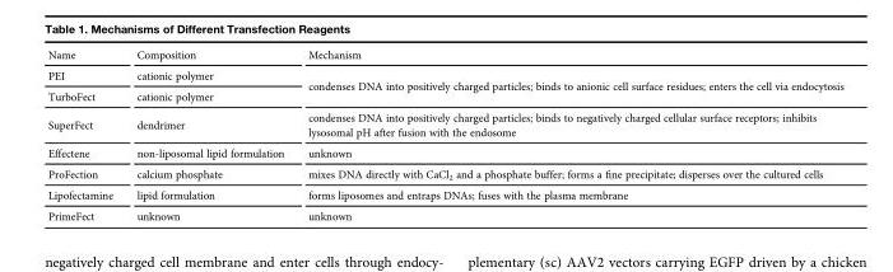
<table><thead><tr><td>Name</td><td>Composition</td><td>Mechanism</td></tr></thead><tbody><tr><td>PEI</td><td>cationic polymer</td><td rowspan="2">condenses DNA into positively charged particles; binds to anionic cell surface residues; enters the cell via endocytosis</td></tr><tr><td>TurboFect</td><td>cationic polymer</td></tr><tr><td>SuperFect</td><td>dendrimer</td><td>condenses DNA into positively charged particles; binds to negatively charged cellular surface receptors; inhibits lysosomal pH after fusion with the endosome</td></tr><tr><td>Effectene</td><td>non-liposomal lipid formulation</td><td>unknown</td></tr><tr><td>ProFection</td><td>calcium phosphate</td><td>mixes DNA directly with CaCl<sub>2</sub> and a phosphate buffer; forms a fine precipitate; disperses over the cultured cells</td></tr><tr><td>Lipofectamine</td><td>lipid formulation</td><td>forms liposomes and entraps DNAs; fuses with the plasma membrane</td></tr><tr><td>PrimeFect</td><td>unknown</td><td>unknown</td></tr></tbody></table>